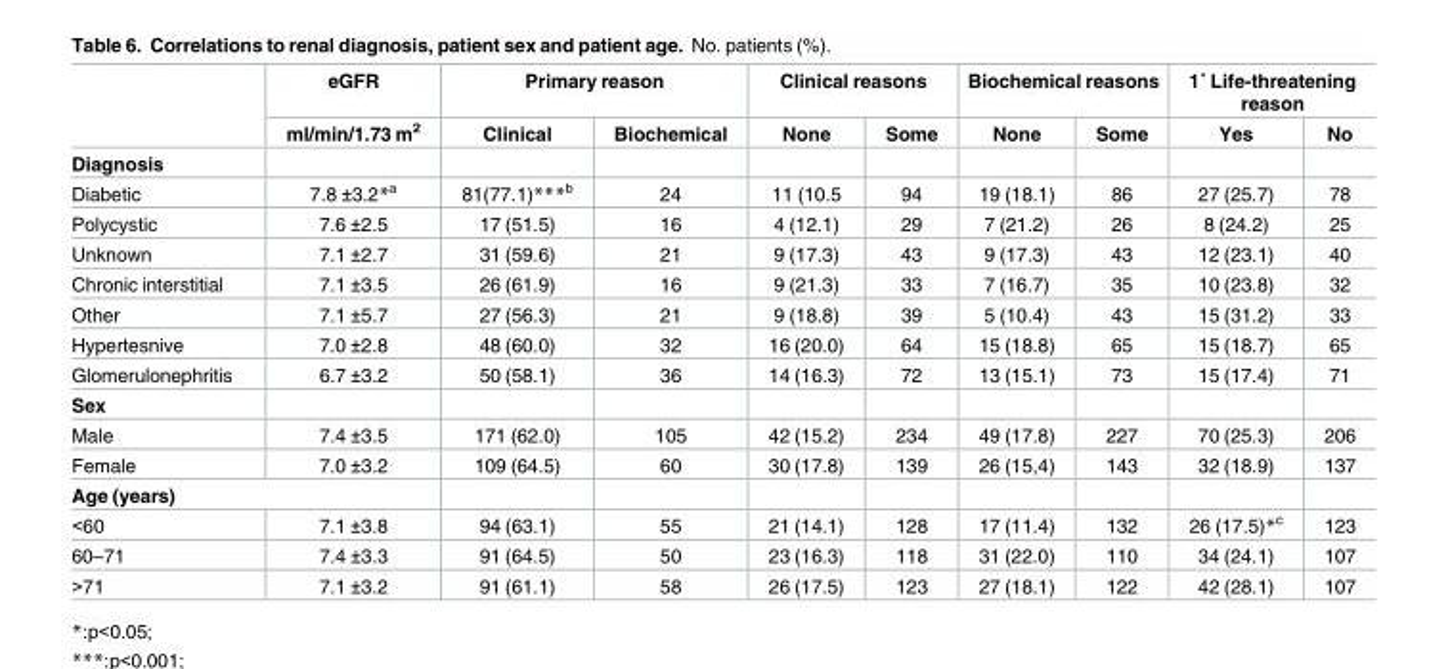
<table><thead><tr><td rowspan="2"></td><td rowspan="2">eGFR ml/min/1.73 m<sup>2</sup></td><td colspan="2">Primary reason</td><td colspan="2">Clinical reasons</td><td colspan="2">Biochemical reasons</td><td colspan="2">1˚ Life-threatening reason</td></tr><tr><td>Clinical</td><td>Biochemical</td><td>None</td><td>Some</td><td>None</td><td>Some</td><td>Yes</td><td>No</td></tr></thead><tbody><tr><td colspan="10">Diagnosis</td></tr><tr><td>Diabetic</td><td>7.8 ±3.2*<sup>a</sup></td><td>81(77.1)***<sup>b</sup></td><td>24</td><td>11 (10.5</td><td>94</td><td>19 (18.1)</td><td>86</td><td>27 (25.7)</td><td>78</td></tr><tr><td>Polycystic</td><td>7.6 ±2.5</td><td>17 (51.5)</td><td>16</td><td>4 (12.1)</td><td>29</td><td>7 (21.2)</td><td>26</td><td>8 (24.2)</td><td>25</td></tr><tr><td>Unknown</td><td>7.1 ±2.7</td><td>31 (59.6)</td><td>21</td><td>9 (17.3)</td><td>43</td><td>9 (17.3)</td><td>43</td><td>12 (23.1)</td><td>40</td></tr><tr><td>Chronic interstitial</td><td>7.1 ±3.5</td><td>26 (61.9)</td><td>16</td><td>9 (21.3)</td><td>33</td><td>7 (16.7)</td><td>35</td><td>10 (23.8)</td><td>32</td></tr><tr><td>Other</td><td>7.1 ±5.7</td><td>27 (56.3)</td><td>21</td><td>9 (18.8)</td><td>39</td><td>5 (10.4)</td><td>43</td><td>15 (31.2)</td><td>33</td></tr><tr><td>Hypertesnive</td><td>7.0 ±2.8</td><td>48 (60.0)</td><td>32</td><td>16 (20.0)</td><td>64</td><td>15 (18.8)</td><td>65</td><td>15 (18.7)</td><td>65</td></tr><tr><td>Glomerulonephritis</td><td>6.7 ±3.2</td><td>50 (58.1)</td><td>36</td><td>14 (16.3)</td><td>72</td><td>13 (15.1)</td><td>73</td><td>15 (17.4)</td><td>71</td></tr><tr><td colspan="10">Sex</td></tr><tr><td>Male</td><td>7.4 ±3.5</td><td>171 (62.0)</td><td>105</td><td>42 (15.2)</td><td>234</td><td>49 (17.8)</td><td>227</td><td>70 (25.3)</td><td>206</td></tr><tr><td>Female</td><td>7.0 ±3.2</td><td>109 (64.5)</td><td>60</td><td>30 (17.8)</td><td>139</td><td>26 (15,4)</td><td>143</td><td>32 (18.9)</td><td>137</td></tr><tr><td colspan="10">Age (years)</td></tr><tr><td>&lt;60</td><td>7.1 ±3.8</td><td>94 (63.1)</td><td>55</td><td>21 (14.1)</td><td>128</td><td>17 (11.4)</td><td>132</td><td>26 (17.5)*<sup>c</sup></td><td>123</td></tr><tr><td>60–71</td><td>7.4 ±3.3</td><td>91 (64.5)</td><td>50</td><td>23 (16.3)</td><td>118</td><td>31 (22.0)</td><td>110</td><td>34 (24.1)</td><td>107</td></tr><tr><td>&gt;71</td><td>7.1 ±3.2</td><td>91 (61.1)</td><td>58</td><td>26 (17.5)</td><td>123</td><td>27 (18.1)</td><td>122</td><td>42 (28.1)</td><td>107</td></tr></tbody></table>